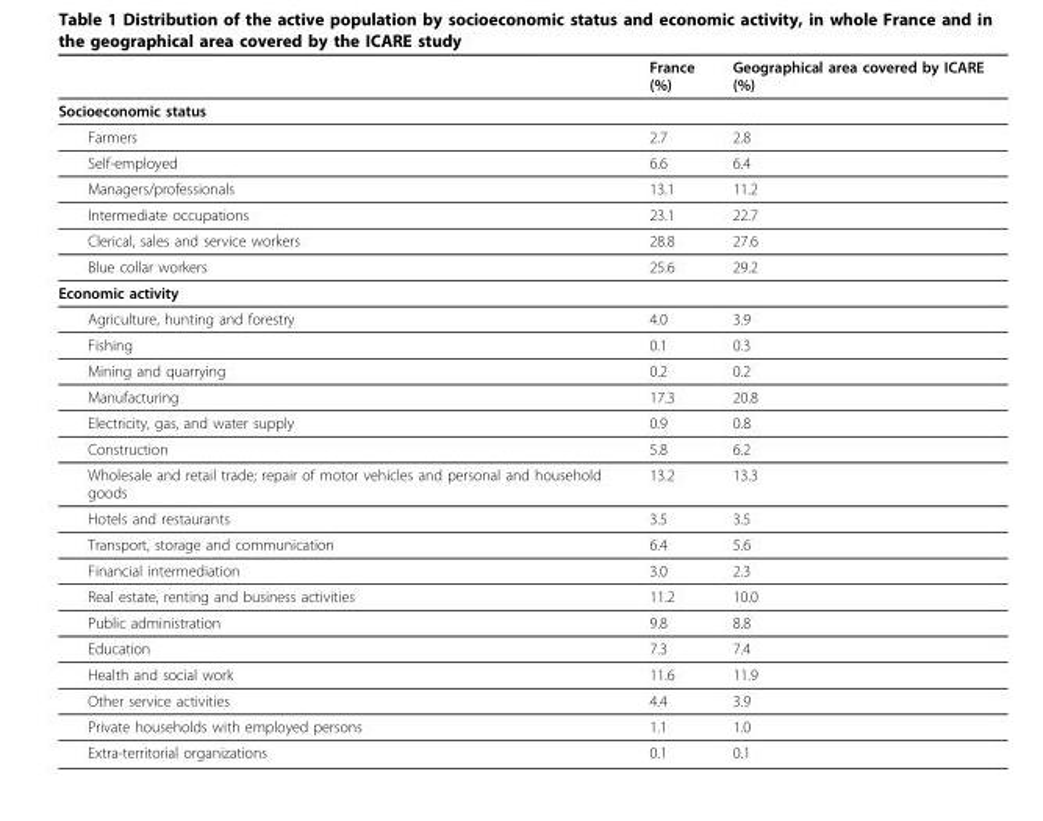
<table><thead><tr><td></td><td>France (%)</td><td>Geographical area covered by ICARE (%)</td></tr></thead><tbody><tr><td colspan="3">Socioeconomic status</td></tr><tr><td>Farmers</td><td>2.7</td><td>2.8</td></tr><tr><td>Self-employed</td><td>6.6</td><td>6.4</td></tr><tr><td>Managers/professionals</td><td>13.1</td><td>11.2</td></tr><tr><td>Intermediate occupations</td><td>23.1</td><td>22.7</td></tr><tr><td>Clerical, sales and service workers</td><td>28.8</td><td>27.6</td></tr><tr><td>Blue collar workers</td><td>25.6</td><td>29.2</td></tr><tr><td colspan="3">Economic activity</td></tr><tr><td>Agriculture, hunting and forestry</td><td>4.0</td><td>3.9</td></tr><tr><td>Fishing</td><td>0.1</td><td>0.3</td></tr><tr><td>Mining and quarrying</td><td>0.2</td><td>0.2</td></tr><tr><td>Manufacturing</td><td>17.3</td><td>20.8</td></tr><tr><td>Electricity, gas, and water supply</td><td>0.9</td><td>0.8</td></tr><tr><td>Construction</td><td>5.8</td><td>6.2</td></tr><tr><td>Wholesale and retail trade; repair of motor vehicles and personal and household goods</td><td>13.2</td><td>13.3</td></tr><tr><td>Hotels and restaurants</td><td>3.5</td><td>3.5</td></tr><tr><td>Transport, storage and communication</td><td>6.4</td><td>5.6</td></tr><tr><td>Financial intermediation</td><td>3.0</td><td>2.3</td></tr><tr><td>Real estate, renting and business activities</td><td>11.2</td><td>10.0</td></tr><tr><td>Public administration</td><td>9.8</td><td>8.8</td></tr><tr><td>Education</td><td>7.3</td><td>7.4</td></tr><tr><td>Health and social work</td><td>11.6</td><td>11.9</td></tr><tr><td>Other service activities</td><td>4.4</td><td>3.9</td></tr><tr><td>Private households with employed persons</td><td>1.1</td><td>1.0</td></tr><tr><td>Extra-territorial organizations</td><td>0.1</td><td>0.1</td></tr></tbody></table>